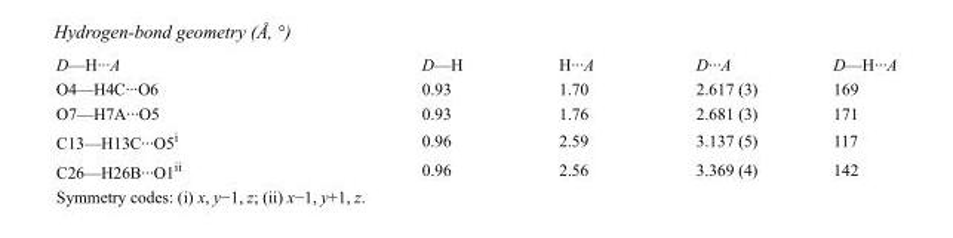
<table><tbody><tr><td>D—H···A</td><td>D—H</td><td>H···A</td><td>D···A</td><td>D—H···A</td></tr><tr><td>O4—H4C···O6</td><td>0.93</td><td>1.70</td><td>2.617 (3)</td><td>169</td></tr><tr><td>O7—H7A···O5</td><td>0.93</td><td>1.76</td><td>2.681 (3)</td><td>171</td></tr><tr><td>C13—H13C···O5<sup>i</sup></td><td>0.96</td><td>2.59</td><td>3.137 (5)</td><td>117</td></tr><tr><td>C26—H26B···O1<sup>ii</sup></td><td>0.96</td><td>2.56</td><td>3.369 (4)</td><td>142</td></tr></tbody></table>